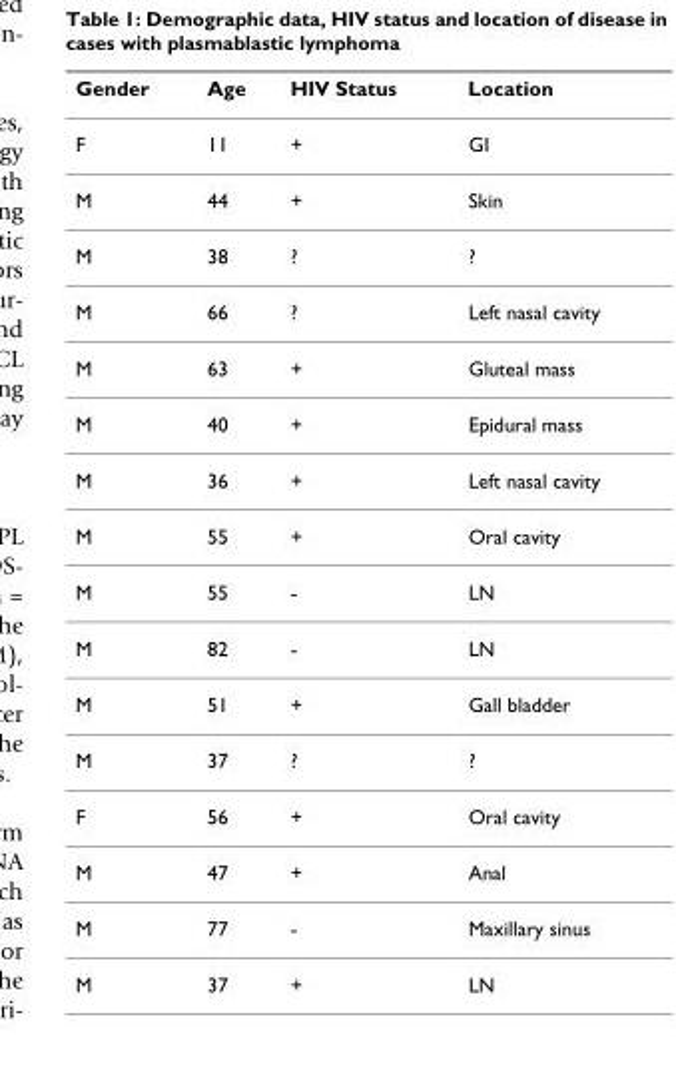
<table><thead><tr><td>Gender</td><td>Age</td><td>HIV Status</td><td>Location</td></tr></thead><tbody><tr><td>F</td><td>11</td><td>+</td><td>GI</td></tr><tr><td>M</td><td>44</td><td>+</td><td>Skin</td></tr><tr><td>M</td><td>38</td><td>?</td><td>?</td></tr><tr><td>M</td><td>66</td><td>?</td><td>Left nasal cavity</td></tr><tr><td>M</td><td>63</td><td>+</td><td>Gluteal mass</td></tr><tr><td>M</td><td>40</td><td>+</td><td>Epidural mass</td></tr><tr><td>M</td><td>36</td><td>+</td><td>Left nasal cavity</td></tr><tr><td>M</td><td>55</td><td>+</td><td>Oral cavity</td></tr><tr><td>M</td><td>55</td><td>-</td><td>LN</td></tr><tr><td>M</td><td>82</td><td>-</td><td>LN</td></tr><tr><td>M</td><td>51</td><td>+</td><td>Gall bladder</td></tr><tr><td>M</td><td>37</td><td>?</td><td>?</td></tr><tr><td>F</td><td>56</td><td>+</td><td>Oral cavity</td></tr><tr><td>M</td><td>47</td><td>+</td><td>Anal</td></tr><tr><td>M</td><td>77</td><td>-</td><td>Maxillary sinus</td></tr><tr><td>M</td><td>37</td><td>+</td><td>LN</td></tr></tbody></table>